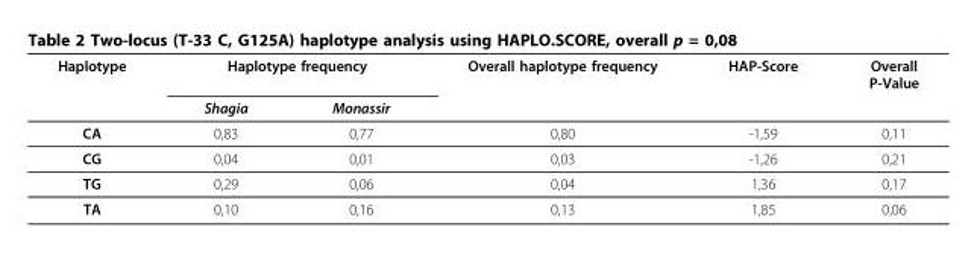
<table><thead><tr><td rowspan="2">Haplotype</td><td colspan="2">Haplotype frequency</td><td rowspan="2">Overall haplotype frequency</td><td rowspan="2">HAP-Score</td><td rowspan="2">Overall P-Value</td></tr><tr><td>Shagia</td><td>Monassir</td></tr></thead><tbody><tr><td>CA</td><td>0,83</td><td>0,77</td><td>0,80</td><td>-1,59</td><td>0,11</td></tr><tr><td>CG</td><td>0,04</td><td>0,01</td><td>0,03</td><td>-1,26</td><td>0,21</td></tr><tr><td>TG</td><td>0,29</td><td>0,06</td><td>0,04</td><td>1,36</td><td>0,17</td></tr><tr><td>TA</td><td>0,10</td><td>0,16</td><td>0,13</td><td>1,85</td><td>0,06</td></tr></tbody></table>